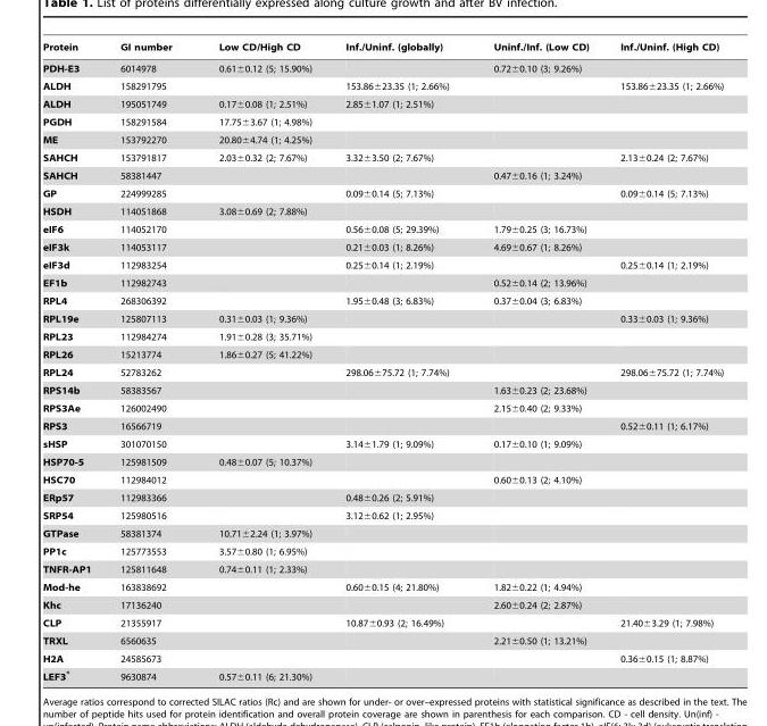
<table><thead><tr><td>Protein</td><td>GI number</td><td>Low CD/High CD</td><td>Inf./Uninf. (globally)</td><td>Uninf./Inf. (Low CD)</td><td>Inf./Uninf. (High CD)</td></tr></thead><tbody><tr><td>PDH-E3</td><td>6014978</td><td>0.61±0.12 (5; 15.90%)</td><td></td><td>0.72±0.10 (3; 9.26%)</td><td></td></tr><tr><td>ALDH</td><td>158291795</td><td></td><td>153.86±23.35 (1; 2.66%)</td><td></td><td>153.86±23.35 (1; 2.66%)</td></tr><tr><td>ALDH</td><td>195051749</td><td>0.17±0.08 (1; 2.51%)</td><td>2.85±1.07 (1; 2.51%)</td><td></td><td></td></tr><tr><td>PGDH</td><td>158291584</td><td>17.75±3.67 (1; 4.98%)</td><td></td><td></td><td></td></tr><tr><td>ME</td><td>153792270</td><td>20.80±4.74 (1; 4.25%)</td><td></td><td></td><td></td></tr><tr><td>SAHCH</td><td>153791817</td><td>2.03±0.32 (2; 7.67%)</td><td>3.32±3.50 (2; 7.67%)</td><td></td><td>2.13±0.24 (2; 7.67%)</td></tr><tr><td>SAHCH</td><td>58381447</td><td></td><td></td><td>0.47±0.16 (1; 3.24%)</td><td></td></tr><tr><td>GP</td><td>224999285</td><td></td><td>0.09±0.14 (5; 7.13%)</td><td></td><td>0.09±0.14 (5; 7.13%)</td></tr><tr><td>HSDH</td><td>114051868</td><td>3.08±0.69 (2; 7.88%)</td><td></td><td></td><td></td></tr><tr><td>eIF6</td><td>114052170</td><td></td><td>0.56±0.08 (5; 29.39%)</td><td>1.79±0.25 (3; 16.73%)</td><td></td></tr><tr><td>eIF3k</td><td>114053117</td><td></td><td>0.21±0.03 (1; 8.26%)</td><td>4.69±0.67 (1; 8.26%)</td><td></td></tr><tr><td>eIF3d</td><td>112983254</td><td></td><td>0.25±0.14 (1; 2.19%)</td><td></td><td>0.25±0.14 (1; 2.19%)</td></tr><tr><td>EF1b</td><td>112982743</td><td></td><td></td><td>0.52±0.14 (2; 13.96%)</td><td></td></tr><tr><td>RPL4</td><td>268306392</td><td></td><td>1.95±0.48 (3; 6.83%)</td><td>0.37±0.04 (3; 6.83%)</td><td></td></tr><tr><td>RPL19e</td><td>125807113</td><td>0.31±0.03 (1; 9.36%)</td><td></td><td></td><td>0.33±0.03 (1; 9.36%)</td></tr><tr><td>RPL23</td><td>112984274</td><td>1.91±0.28 (3; 35.71%)</td><td></td><td></td><td></td></tr><tr><td>RPL26</td><td>15213774</td><td>1.86±0.27 (5; 41.22%)</td><td></td><td></td><td></td></tr><tr><td>RPL24</td><td>52783262</td><td></td><td>298.06±75.72 (1; 7.74%)</td><td></td><td>298.06±75.72 (1; 7.74%)</td></tr><tr><td>RPS14b</td><td>58383567</td><td></td><td></td><td>1.63±0.23 (2; 23.68%)</td><td></td></tr><tr><td>RPS3Ae</td><td>126002490</td><td></td><td></td><td>2.15±0.40 (2; 9.33%)</td><td></td></tr><tr><td>RPS3</td><td>16566719</td><td></td><td></td><td></td><td>0.52±0.11 (1; 6.17%)</td></tr><tr><td>sHSP</td><td>301070150</td><td></td><td>3.14±1.79 (1; 9.09%)</td><td>0.17±0.10 (1; 9.09%)</td><td></td></tr><tr><td>HSP70-5</td><td>125981509</td><td>0.48±0.07 (5; 10.37%)</td><td></td><td></td><td></td></tr><tr><td>HSC70</td><td>112984012</td><td></td><td></td><td>0.60±0.13 (2; 4.10%)</td><td></td></tr><tr><td>ERp57</td><td>112983366</td><td></td><td>0.48±0.26 (2; 5.91%)</td><td></td><td></td></tr><tr><td>SRP54</td><td>125980516</td><td></td><td>3.12±0.62 (1; 2.95%)</td><td></td><td></td></tr><tr><td>GTPase</td><td>58381374</td><td>10.71±2.24 (1; 3.97%)</td><td></td><td></td><td></td></tr><tr><td>PP1c</td><td>125773553</td><td>3.57±0.80 (1; 6.95%)</td><td></td><td></td><td></td></tr><tr><td>TNFR-AP1</td><td>125811648</td><td>0.74±0.11 (1; 2.33%)</td><td></td><td></td><td></td></tr><tr><td>Mod-he</td><td>163838692</td><td></td><td>0.60±0.15 (4; 21.80%)</td><td>1.82±0.22 (1; 4.94%)</td><td></td></tr><tr><td>Khc</td><td>17136240</td><td></td><td></td><td>2.60±0.24 (2; 2.87%)</td><td></td></tr><tr><td>CLP</td><td>21355917</td><td></td><td>10.87±0.93 (2; 16.49%)</td><td></td><td>21.40±3.29 (1; 7.98%)</td></tr><tr><td>TRXL</td><td>6560635</td><td></td><td></td><td>2.21±0.50 (1; 13.21%)</td><td></td></tr><tr><td>H2A</td><td>24585673</td><td></td><td></td><td></td><td>0.36±0.15 (1; 8.87%)</td></tr><tr><td>LEF3*</td><td>9630874</td><td>0.57±0.11 (6; 21.30%)</td><td></td><td></td><td></td></tr></tbody></table>